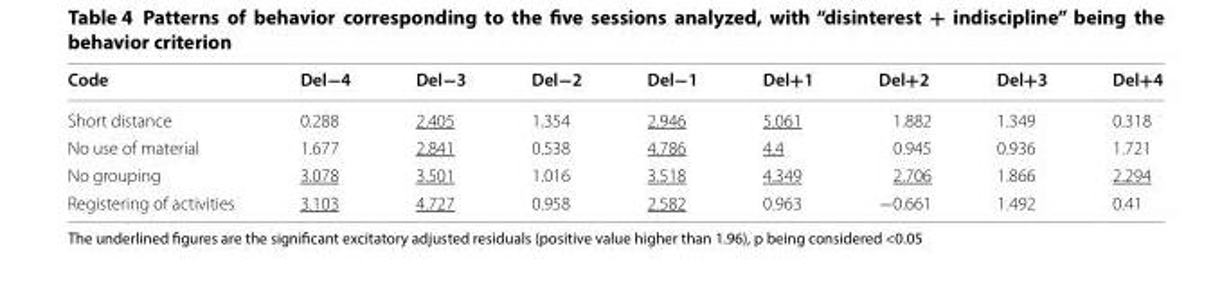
<table><thead><tr><td>Code</td><td>Del−4</td><td>Del−3</td><td>Del−2</td><td>Del−1</td><td>Del+1</td><td>Del+2</td><td>Del+3</td><td>Del+4</td></tr></thead><tbody><tr><td>Short distance</td><td>0.288</td><td>2.405</td><td>1.354</td><td>2.946</td><td>5.061</td><td>1.882</td><td>1.349</td><td>0.318</td></tr><tr><td>No use of material</td><td>1.677</td><td>2.841</td><td>0.538</td><td>4.786</td><td>4.4</td><td>0.945</td><td>0.936</td><td>1.721</td></tr><tr><td>No grouping</td><td>3.078</td><td>3.501</td><td>1.016</td><td>3.518</td><td>4.349</td><td>2.706</td><td>1.866</td><td>2.294</td></tr><tr><td>Registering of activities</td><td>3.103</td><td>4.727</td><td>0.958</td><td>2.582</td><td>0.963</td><td>−0.661</td><td>1.492</td><td>0.41</td></tr></tbody></table>